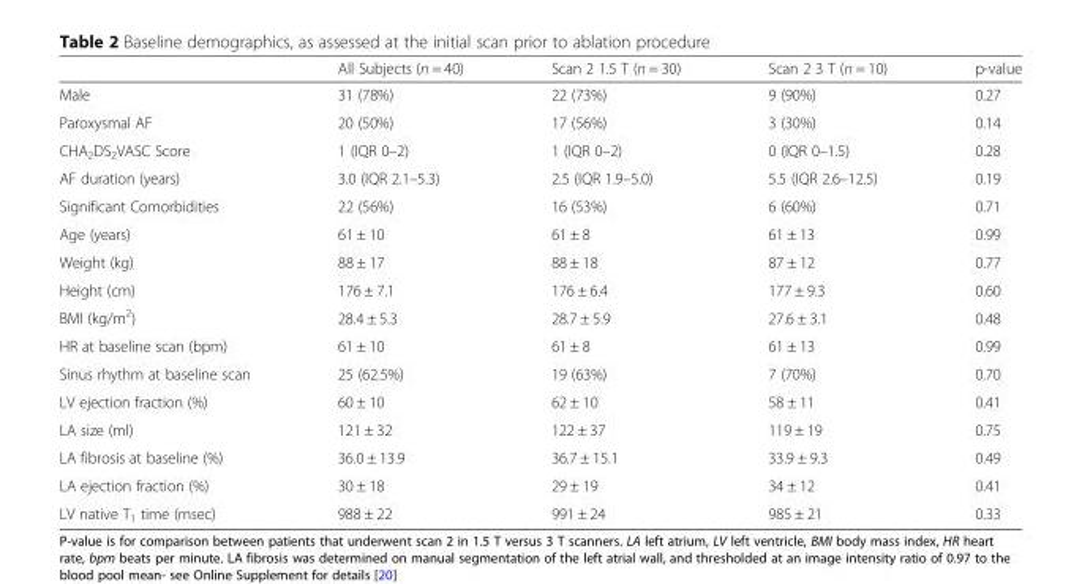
<table><thead><tr><td></td><td>All Subjects (n = 40)</td><td>Scan 2 1.5 T (n = 30)</td><td>Scan 2 3 T (n = 10)</td><td>p-value</td></tr></thead><tbody><tr><td>Male</td><td>31 (78%)</td><td>22 (73%)</td><td>9 (90%)</td><td>0.27</td></tr><tr><td>Paroxysmal AF</td><td>20 (50%)</td><td>17 (56%)</td><td>3 (30%)</td><td>0.14</td></tr><tr><td>CHA<sub>2</sub>DS<sub>2</sub>VASC Score</td><td>1 (IQR 0–2)</td><td>1 (IQR 0–2)</td><td>0 (IQR 0–1.5)</td><td>0.28</td></tr><tr><td>AF duration (years)</td><td>3.0 (IQR 2.1–5.3)</td><td>2.5 (IQR 1.9–5.0)</td><td>5.5 (IQR 2.6–12.5)</td><td>0.19</td></tr><tr><td>Significant Comorbidities</td><td>22 (56%)</td><td>16 (53%)</td><td>6 (60%)</td><td>0.71</td></tr><tr><td>Age (years)</td><td>61 ± 10</td><td>61 ± 8</td><td>61 ± 13</td><td>0.99</td></tr><tr><td>Weight (kg)</td><td>88 ± 17</td><td>88 ± 18</td><td>87 ± 12</td><td>0.77</td></tr><tr><td>Height (cm)</td><td>176 ± 7.1</td><td>176 ± 6.4</td><td>177 ± 9.3</td><td>0.60</td></tr><tr><td>BMI (kg/m<sup>2</sup>)</td><td>28.4 ± 5.3</td><td>28.7 ± 5.9</td><td>27.6 ± 3.1</td><td>0.48</td></tr><tr><td>HR at baseline scan (bpm)</td><td>61 ± 10</td><td>61 ± 8</td><td>61 ± 13</td><td>0.99</td></tr><tr><td>Sinus rhythm at baseline scan</td><td>25 (62.5%)</td><td>19 (63%)</td><td>7 (70%)</td><td>0.70</td></tr><tr><td>LV ejection fraction (%)</td><td>60 ± 10</td><td>62 ± 10</td><td>58 ± 11</td><td>0.41</td></tr><tr><td>LA size (ml)</td><td>121 ± 32</td><td>122 ± 37</td><td>119 ± 19</td><td>0.75</td></tr><tr><td>LA fibrosis at baseline (%)</td><td>36.0 ± 13.9</td><td>36.7 ± 15.1</td><td>33.9 ± 9.3</td><td>0.49</td></tr><tr><td>LA ejection fraction (%)</td><td>30 ± 18</td><td>29 ± 19</td><td>34 ± 12</td><td>0.41</td></tr><tr><td>LV native T<sub>1</sub> time (msec)</td><td>988 ± 22</td><td>991 ± 24</td><td>985 ± 21</td><td>0.33</td></tr></tbody></table>